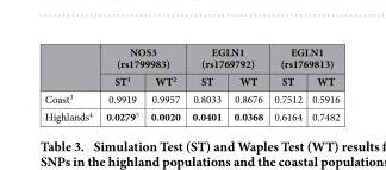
<table><thead><tr><td rowspan="2"></td><td colspan="2">NOS3 (rs1799983)</td><td colspan="2">EGLN1 (rs1769792)</td><td colspan="2">EGLN1 (rs1769813)</td></tr><tr><td>ST<sup>1</sup></td><td>WT<sup>2</sup></td><td>ST</td><td>WT</td><td>ST</td><td>WT</td></tr></thead><tbody><tr><td>Coast<sup>3</sup></td><td>0.9919</td><td>0.9957</td><td>0.8033</td><td>0.8676</td><td>0.7512</td><td>0.5916</td></tr><tr><td>Highlands<sup>4</sup></td><td>0.0279<sup>5</sup></td><td>0.0020</td><td>0.0401</td><td>0.0368</td><td>0.6164</td><td>0.7482</td></tr></tbody></table>